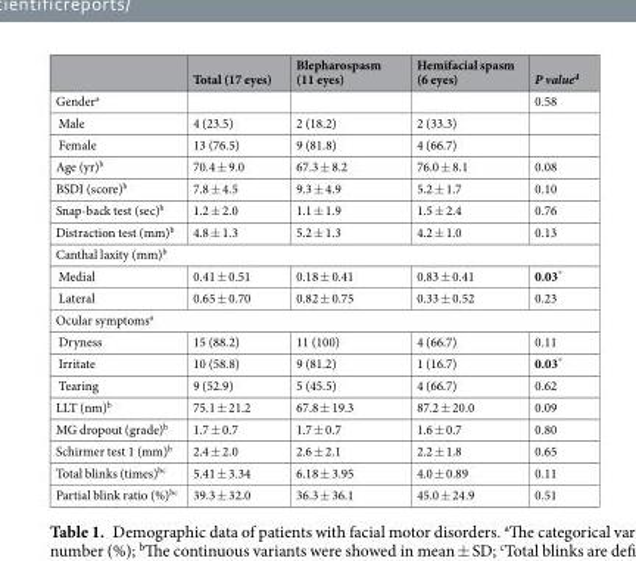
<table><thead><tr><td></td><td>Total (17 eyes)</td><td>Blepharospasm (11 eyes)</td><td>Hemifacial spasm (6 eyes)</td><td>P value<sup>d</sup></td></tr></thead><tbody><tr><td>Gender<sup>a</sup></td><td></td><td></td><td></td><td>0.58</td></tr><tr><td>Male</td><td>4 (23.5)</td><td>2 (18.2)</td><td>2 (33.3)</td><td></td></tr><tr><td>Female</td><td>13 (76.5)</td><td>9 (81.8)</td><td>4 (66.7)</td><td></td></tr><tr><td>Age (yr)<sup>b</sup></td><td>70.4 ± 9.0</td><td>67.3 ± 8.2</td><td>76.0 ± 8.1</td><td>0.08</td></tr><tr><td>BSDI (score)<sup>b</sup></td><td>7.8 ± 4.5</td><td>9.3 ± 4.9</td><td>5.2 ± 1.7</td><td>0.10</td></tr><tr><td>Snap-back test (sec)<sup>b</sup></td><td>1.2 ± 2.0</td><td>1.1 ± 1.9</td><td>1.5 ± 2.4</td><td>0.76</td></tr><tr><td>Distraction test (mm)<sup>b</sup></td><td>4.8 ± 1.3</td><td>5.2 ± 1.3</td><td>4.2 ± 1.0</td><td>0.13</td></tr><tr><td colspan="5">Canthal laxity (mm)<sup>b</sup></td></tr><tr><td>Medial</td><td>0.41 ± 0.51</td><td>0.18 ± 0.41</td><td>0.83 ± 0.41</td><td>0.03*</td></tr><tr><td>Lateral</td><td>0.65 ± 0.70</td><td>0.82 ± 0.75</td><td>0.33 ± 0.52</td><td>0.23</td></tr><tr><td colspan="5">Ocular symptoms<sup>a</sup></td></tr><tr><td>Dryness</td><td>15 (88.2)</td><td>11 (100)</td><td>4 (66.7)</td><td>0.11</td></tr><tr><td>Irritate</td><td>10 (58.8)</td><td>9 (81.2)</td><td>1 (16.7)</td><td>0.03*</td></tr><tr><td>Tearing</td><td>9 (52.9)</td><td>5 (45.5)</td><td>4 (66.7)</td><td>0.62</td></tr><tr><td>LLT (nm)<sup>b</sup></td><td>75.1 ± 21.2</td><td>67.8 ± 19.3</td><td>87.2 ± 20.0</td><td>0.09</td></tr><tr><td>MG dropout (grade)<sup>b</sup></td><td>1.7 ± 0.7</td><td>1.7 ± 0.7</td><td>1.6 ± 0.7</td><td>0.80</td></tr><tr><td>Schirmer test 1 (mm)<sup>b</sup></td><td>2.4 ± 2.0</td><td>2.6 ± 2.1</td><td>2.2 ± 1.8</td><td>0.65</td></tr><tr><td>Total blinks (times)<sup>bc</sup></td><td>5.41 ± 3.34</td><td>6.18 ± 3.95</td><td>4.0 ± 0.89</td><td>0.11</td></tr><tr><td>Partial blink ratio (%)<sup>bc</sup></td><td>39.3 ± 32.0</td><td>36.3 ± 36.1</td><td>45.0 ± 24.9</td><td>0.51</td></tr></tbody></table>